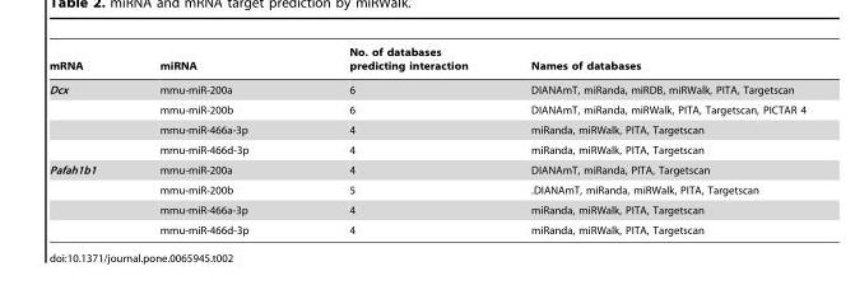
<table><thead><tr><td>mRNA</td><td>miRNA</td><td>No. of databases predicting interaction</td><td>Names of databases</td></tr></thead><tbody><tr><td rowspan="4">Dcx</td><td>mmu-miR-200a</td><td>6</td><td>DIANAmT, miRanda, miRDB, miRWalk, PITA, Targetscan</td></tr><tr><td>mmu-miR-200b</td><td>6</td><td>DIANAmT, miRanda, miRWalk, PITA, Targetscan, PICTAR 4</td></tr><tr><td>mmu-miR-466a-3p</td><td>4</td><td>miRanda, miRWalk, PITA, Targetscan</td></tr><tr><td>mmu-miR-466d-3p</td><td>4</td><td>miRanda, miRWalk, PITA, Targetscan</td></tr><tr><td rowspan="4">Pafah1b1</td><td>mmu-miR-200a</td><td>4</td><td>DIANAmT, miRanda, PITA, Targetscan</td></tr><tr><td>mmu-miR-200b</td><td>5</td><td>.DIANAmT, miRanda, miRWalk, PITA, Targetscan</td></tr><tr><td>mmu-miR-466a-3p</td><td>4</td><td>miRanda, miRWalk, PITA, Targetscan</td></tr><tr><td>mmu-miR-466d-3p</td><td>4</td><td>miRanda, miRWalk, PITA, Targetscan</td></tr></tbody></table>